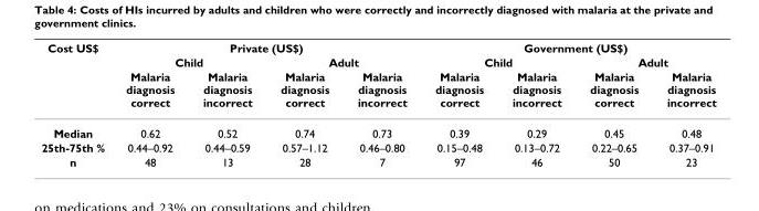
<table><thead><tr><td rowspan="3">Cost US$</td><td colspan="4">Private (US$)</td><td colspan="4">Government (US$)</td></tr><tr><td colspan="2">Child</td><td colspan="2">Adult</td><td colspan="2">Child</td><td colspan="2">Adult</td></tr><tr><td>Malaria diagnosis correct</td><td>Malaria diagnosis incorrect</td><td>Malaria diagnosis correct</td><td>Malaria diagnosis incorrect</td><td>Malaria diagnosis correct</td><td>Malaria diagnosis incorrect</td><td>Malaria diagnosis correct</td><td>Malaria diagnosis incorrect</td></tr></thead><tbody><tr><td>Median</td><td>0.62</td><td>0.52</td><td>0.74</td><td>0.73</td><td>0.39</td><td>0.29</td><td>0.45</td><td>0.48</td></tr><tr><td>25th-75th %</td><td>0.44–0.92</td><td>0.44–0.59</td><td>0.57–1.12</td><td>0.46–0.80</td><td>0.15–0.48</td><td>0.13–0.72</td><td>0.22–0.65</td><td>0.37–0.91</td></tr><tr><td>n</td><td>48</td><td>13</td><td>28</td><td>7</td><td>97</td><td>46</td><td>50</td><td>23</td></tr></tbody></table>